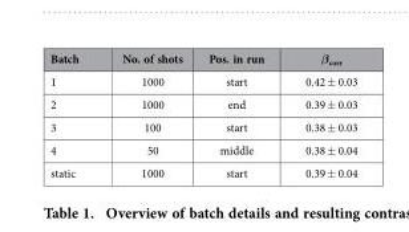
<table><thead><tr><td>Batch</td><td>No. of shots</td><td>Pos. in run</td><td>β<sub>corr</sub></td></tr></thead><tbody><tr><td>1</td><td>1000</td><td>start</td><td>0.42 ± 0.03</td></tr><tr><td>2</td><td>1000</td><td>end</td><td>0.39 ± 0.03</td></tr><tr><td>3</td><td>100</td><td>start</td><td>0.38 ± 0.03</td></tr><tr><td>4</td><td>50</td><td>middle</td><td>0.38 ± 0.04</td></tr><tr><td>static</td><td>1000</td><td>start</td><td>0.39 ± 0.04</td></tr></tbody></table>